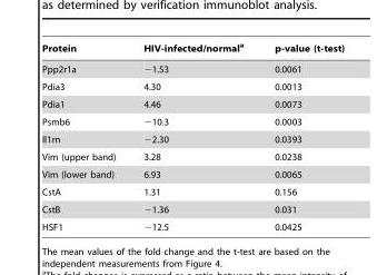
<table><thead><tr><td>Protein</td><td>HIV-infected/normal<sup>a</sup></td><td>p-value (t-test)</td></tr></thead><tbody><tr><td>Ppp2r1a</td><td>−1.53</td><td>0.0061</td></tr><tr><td>Pdia3</td><td>4.30</td><td>0.0013</td></tr><tr><td>Pdia1</td><td>4.46</td><td>0.0073</td></tr><tr><td>Psmb6</td><td>−10.3</td><td>0.0003</td></tr><tr><td>Il1rn</td><td>−2.30</td><td>0.0393</td></tr><tr><td>Vim (upper band)</td><td>3.28</td><td>0.0238</td></tr><tr><td>Vim (lower band)</td><td>6.93</td><td>0.0065</td></tr><tr><td>CstA</td><td>1.31</td><td>0.156</td></tr><tr><td>CstB</td><td>−1.36</td><td>0.031</td></tr><tr><td>HSF1</td><td>−12.5</td><td>0.0425</td></tr></tbody></table>